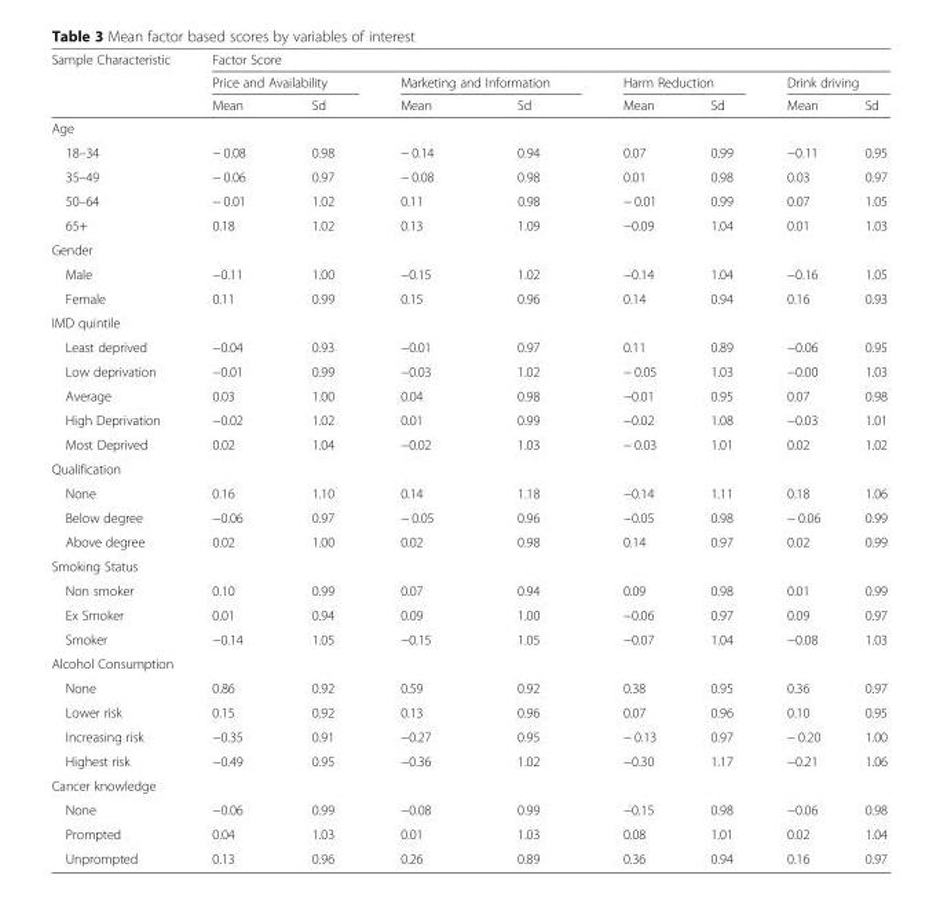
<table><thead><tr><td rowspan="3">Sample Characteristic</td><td colspan="8">Factor Score</td></tr><tr><td colspan="2">Price and Availability</td><td colspan="2">Marketing and Information</td><td colspan="2">Harm Reduction</td><td colspan="2">Drink driving</td></tr><tr><td>Mean</td><td>Sd</td><td>Mean</td><td>Sd</td><td>Mean</td><td>Sd</td><td>Mean</td><td>Sd</td></tr></thead><tbody><tr><td colspan="9">Age</td></tr><tr><td>18–34</td><td>− 0.08</td><td>0.98</td><td>− 0.14</td><td>0.94</td><td>0.07</td><td>0.99</td><td>−0.11</td><td>0.95</td></tr><tr><td>35–49</td><td>− 0.06</td><td>0.97</td><td>− 0.08</td><td>0.98</td><td>0.01</td><td>0.98</td><td>0.03</td><td>0.97</td></tr><tr><td>50–64</td><td>− 0.01</td><td>1.02</td><td>0.11</td><td>0.98</td><td>− 0.01</td><td>0.99</td><td>0.07</td><td>1.05</td></tr><tr><td>65+</td><td>0.18</td><td>1.02</td><td>0.13</td><td>1.09</td><td>−0.09</td><td>1.04</td><td>0.01</td><td>1.03</td></tr><tr><td colspan="9">Gender</td></tr><tr><td>Male</td><td>−0.11</td><td>1.00</td><td>−0.15</td><td>1.02</td><td>−0.14</td><td>1.04</td><td>−0.16</td><td>1.05</td></tr><tr><td>Female</td><td>0.11</td><td>0.99</td><td>0.15</td><td>0.96</td><td>0.14</td><td>0.94</td><td>0.16</td><td>0.93</td></tr><tr><td colspan="9">IMD quintile</td></tr><tr><td>Least deprived</td><td>−0.04</td><td>0.93</td><td>−0.01</td><td>0.97</td><td>0.11</td><td>0.89</td><td>−0.06</td><td>0.95</td></tr><tr><td>Low deprivation</td><td>−0.01</td><td>0.99</td><td>−0.03</td><td>1.02</td><td>− 0.05</td><td>1.03</td><td>−0.00</td><td>1.03</td></tr><tr><td>Average</td><td>0.03</td><td>1.00</td><td>0.04</td><td>0.98</td><td>−0.01</td><td>0.95</td><td>0.07</td><td>0.98</td></tr><tr><td>High Deprivation</td><td>−0.02</td><td>1.02</td><td>0.01</td><td>0.99</td><td>−0.02</td><td>1.08</td><td>−0.03</td><td>1.01</td></tr><tr><td>Most Deprived</td><td>0.02</td><td>1.04</td><td>−0.02</td><td>1.03</td><td>− 0.03</td><td>1.01</td><td>0.02</td><td>1.02</td></tr><tr><td colspan="9">Qualification</td></tr><tr><td>None</td><td>0.16</td><td>1.10</td><td>0.14</td><td>1.18</td><td>−0.14</td><td>1.11</td><td>0.18</td><td>1.06</td></tr><tr><td>Below degree</td><td>−0.06</td><td>0.97</td><td>− 0.05</td><td>0.96</td><td>−0.05</td><td>0.98</td><td>− 0.06</td><td>0.99</td></tr><tr><td>Above degree</td><td>0.02</td><td>1.00</td><td>0.02</td><td>0.98</td><td>0.14</td><td>0.97</td><td>0.02</td><td>0.99</td></tr><tr><td colspan="9">Smoking Status</td></tr><tr><td>Non smoker</td><td>0.10</td><td>0.99</td><td>0.07</td><td>0.94</td><td>0.09</td><td>0.98</td><td>0.01</td><td>0.99</td></tr><tr><td>Ex Smoker</td><td>0.01</td><td>0.94</td><td>0.09</td><td>1.00</td><td>−0.06</td><td>0.97</td><td>0.09</td><td>0.97</td></tr><tr><td>Smoker</td><td>−0.14</td><td>1.05</td><td>−0.15</td><td>1.05</td><td>−0.07</td><td>1.04</td><td>−0.08</td><td>1.03</td></tr><tr><td colspan="9">Alcohol Consumption</td></tr><tr><td>None</td><td>0.86</td><td>0.92</td><td>0.59</td><td>0.92</td><td>0.38</td><td>0.95</td><td>0.36</td><td>0.97</td></tr><tr><td>Lower risk</td><td>0.15</td><td>0.92</td><td>0.13</td><td>0.96</td><td>0.07</td><td>0.96</td><td>0.10</td><td>0.95</td></tr><tr><td>Increasing risk</td><td>−0.35</td><td>0.91</td><td>−0.27</td><td>0.95</td><td>− 0.13</td><td>0.97</td><td>− 0.20</td><td>1.00</td></tr><tr><td>Highest risk</td><td>−0.49</td><td>0.95</td><td>−0.36</td><td>1.02</td><td>−0.30</td><td>1.17</td><td>−0.21</td><td>1.06</td></tr><tr><td colspan="9">Cancer knowledge</td></tr><tr><td>None</td><td>−0.06</td><td>0.99</td><td>−0.08</td><td>0.99</td><td>−0.15</td><td>0.98</td><td>−0.06</td><td>0.98</td></tr><tr><td>Prompted</td><td>0.04</td><td>1.03</td><td>0.01</td><td>1.03</td><td>0.08</td><td>1.01</td><td>0.02</td><td>1.04</td></tr><tr><td>Unprompted</td><td>0.13</td><td>0.96</td><td>0.26</td><td>0.89</td><td>0.36</td><td>0.94</td><td>0.16</td><td>0.97</td></tr></tbody></table>